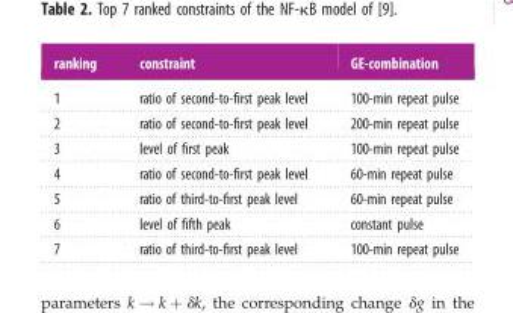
<table><thead><tr><td>ranking</td><td>constraint</td><td>GE-combination</td></tr></thead><tbody><tr><td>1</td><td>ratio of second-to-first peak level</td><td>100-min repeat pulse</td></tr><tr><td>2</td><td>ratio of second-to-first peak level</td><td>200-min repeat pulse</td></tr><tr><td>3</td><td>level of first peak</td><td>100-min repeat pulse</td></tr><tr><td>4</td><td>ratio of second-to-first peak level</td><td>60-min repeat pulse</td></tr><tr><td>5</td><td>ratio of third-to-first peak level</td><td>60-min repeat pulse</td></tr><tr><td>6</td><td>level of fifth peak</td><td>constant pulse</td></tr><tr><td>7</td><td>ratio of third-to-first peak level</td><td>100-min repeat pulse</td></tr></tbody></table>